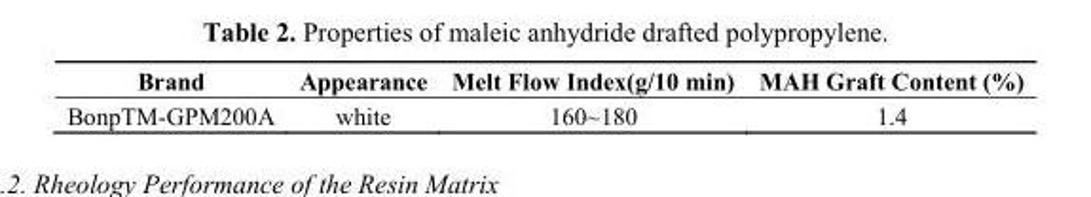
<table><thead><tr><td>Brand</td><td>Appearance</td><td>Melt Flow Index(g/10 min)</td><td>MAH Graft Content (%)</td></tr></thead><tbody><tr><td>BonpTM-GPM200A</td><td>white</td><td>160~180</td><td>1.4</td></tr></tbody></table>